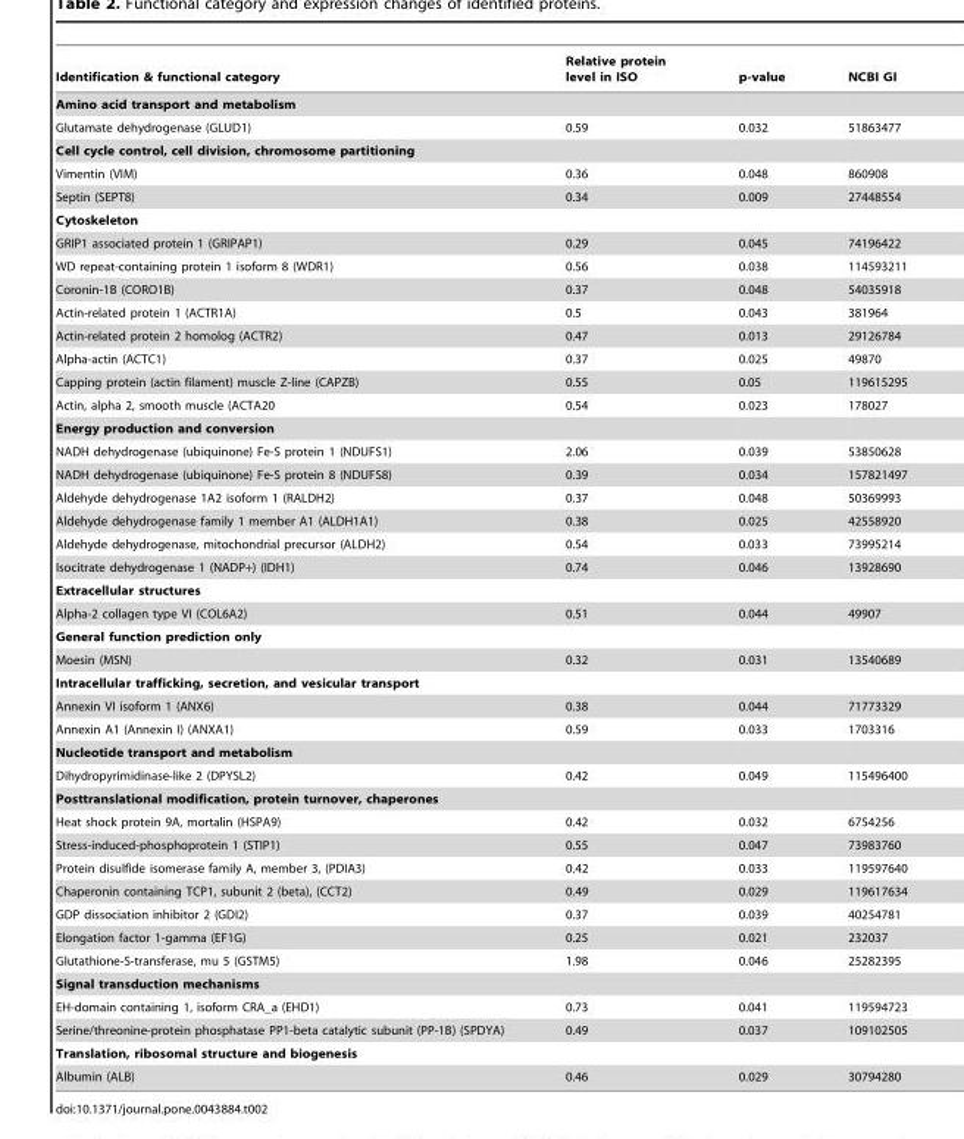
<table><thead><tr><td>Identification &amp; functional category</td><td>Relative protein level in ISO</td><td>p-value</td><td>NCBI GI</td></tr></thead><tbody><tr><td colspan="4">Amino acid transport and metabolism</td></tr><tr><td>Glutamate dehydrogenase (GLUD1)</td><td>0.59</td><td>0.032</td><td>51863477</td></tr><tr><td colspan="4">Cell cycle control, cell division, chromosome partitioning</td></tr><tr><td>Vimentin (VIM)</td><td>0.36</td><td>0.048</td><td>860908</td></tr><tr><td>Septin (SEPT8)</td><td>0.34</td><td>0.009</td><td>27448554</td></tr><tr><td colspan="4">Cytoskeleton</td></tr><tr><td>GRIP1 associated protein 1 (GRIPAP1)</td><td>0.29</td><td>0.045</td><td>74196422</td></tr><tr><td>WD repeat-containing protein 1 isoform 8 (WDR1)</td><td>0.56</td><td>0.038</td><td>114593211</td></tr><tr><td>Coronin-1B (CORO1B)</td><td>0.37</td><td>0.048</td><td>54035918</td></tr><tr><td>Actin-related protein 1 (ACTR1A)</td><td>0.5</td><td>0.043</td><td>381964</td></tr><tr><td>Actin-related protein 2 homolog (ACTR2)</td><td>0.47</td><td>0.013</td><td>29126784</td></tr><tr><td>Alpha-actin (ACTC1)</td><td>0.37</td><td>0.025</td><td>49870</td></tr><tr><td>Capping protein (actin filament) muscle Z-line (CAPZB)</td><td>0.55</td><td>0.05</td><td>119615295</td></tr><tr><td>Actin, alpha 2, smooth muscle (ACTA20</td><td>0.54</td><td>0.023</td><td>178027</td></tr><tr><td colspan="4">Energy production and conversion</td></tr><tr><td>NADH dehydrogenase (ubiquinone) Fe-S protein 1 (NDUFS1)</td><td>2.06</td><td>0.039</td><td>53850628</td></tr><tr><td>NADH dehydrogenase (ubiquinone) Fe-S protein 8 (NDUFS8)</td><td>0.39</td><td>0.034</td><td>157821497</td></tr><tr><td>Aldehyde dehydrogenase 1A2 isoform 1 (RALDH2)</td><td>0.37</td><td>0.048</td><td>50369993</td></tr><tr><td>Aldehyde dehydrogenase family 1 member A1 (ALDH1A1)</td><td>0.38</td><td>0.025</td><td>42558920</td></tr><tr><td>Aldehyde dehydrogenase, mitochondrial precursor (ALDH2)</td><td>0.54</td><td>0.033</td><td>73995214</td></tr><tr><td>Isocitrate dehydrogenase 1 (NADP+) (IDH1)</td><td>0.74</td><td>0.046</td><td>13928690</td></tr><tr><td colspan="4">Extracellular structures</td></tr><tr><td>Alpha-2 collagen type VI (COL6A2)</td><td>0.51</td><td>0.044</td><td>49907</td></tr><tr><td colspan="4">General function prediction only</td></tr><tr><td>Moesin (MSN)</td><td>0.32</td><td>0.031</td><td>13540689</td></tr><tr><td colspan="4">Intracellular trafficking, secretion, and vesicular transport</td></tr><tr><td>Annexin VI isoform 1 (ANX6)</td><td>0.38</td><td>0.044</td><td>71773329</td></tr><tr><td>Annexin A1 (Annexin I) (ANXA1)</td><td>0.59</td><td>0.033</td><td>1703316</td></tr><tr><td colspan="4">Nucleotide transport and metabolism</td></tr><tr><td>Dihydropyrimidinase-like 2 (DPYSL2)</td><td>0.42</td><td>0.049</td><td>115496400</td></tr><tr><td colspan="4">Posttranslational modification, protein turnover, chaperones</td></tr><tr><td>Heat shock protein 9A, mortalin (HSPA9)</td><td>0.42</td><td>0.032</td><td>6754256</td></tr><tr><td>Stress-induced-phosphoprotein 1 (STIP1)</td><td>0.55</td><td>0.047</td><td>73983760</td></tr><tr><td>Protein disulfide isomerase family A, member 3, (PDIA3)</td><td>0.42</td><td>0.033</td><td>119597640</td></tr><tr><td>Chaperonin containing TCP1, subunit 2 (beta), (CCT2)</td><td>0.49</td><td>0.029</td><td>119617634</td></tr><tr><td>GDP dissociation inhibitor 2 (GDI2)</td><td>0.37</td><td>0.039</td><td>40254781</td></tr><tr><td>Elongation factor 1-gamma (EF1G)</td><td>0.25</td><td>0.021</td><td>232037</td></tr><tr><td>Glutathione-S-transferase, mu 5 (GSTM5)</td><td>1.98</td><td>0.046</td><td>25282395</td></tr><tr><td colspan="4">Signal transduction mechanisms</td></tr><tr><td>EH-domain containing 1, isoform CRA_a (EHD1)</td><td>0.73</td><td>0.041</td><td>119594723</td></tr><tr><td>Serine/threonine-protein phosphatase PP1-beta catalytic subunit (PP-1B) (SPDYA)</td><td>0.49</td><td>0.037</td><td>109102505</td></tr><tr><td colspan="4">Translation, ribosomal structure and biogenesis</td></tr><tr><td>Albumin (ALB)</td><td>0.46</td><td>0.029</td><td>30794280</td></tr></tbody></table>